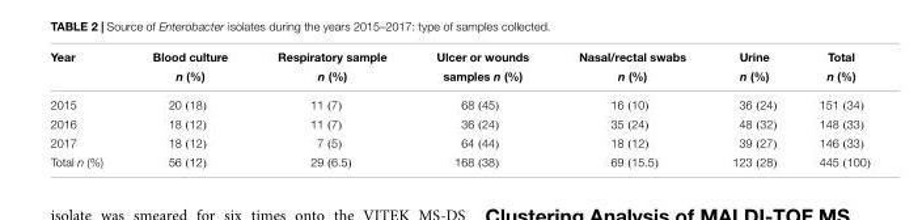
<table><thead><tr><td rowspan="2">Year</td><td rowspan="2">Blood culture n (%)</td><td rowspan="2">Respiratory sample n (%)</td><td rowspan="2">Ulcer or wounds samples n (%)</td><td rowspan="2">Nasal/rectal swabs n (%)</td><td rowspan="2">Urine n (%)</td><td rowspan="2">Total n (%)</td></tr><tr></tr></thead><tbody><tr><td>2015</td><td>20 (18)</td><td>11 (7)</td><td>68 (45)</td><td>16 (10)</td><td>36 (24)</td><td>151 (34)</td></tr><tr><td>2016</td><td>18 (12)</td><td>11 (7)</td><td>36 (24)</td><td>35 (24)</td><td>48 (32)</td><td>148 (33)</td></tr><tr><td>2017</td><td>18 (12)</td><td>7 (5)</td><td>64 (44)</td><td>18 (12)</td><td>39 (27)</td><td>146 (33)</td></tr><tr><td>Total n (%)</td><td>56 (12)</td><td>29 (6.5)</td><td>168 (38)</td><td>69 (15.5)</td><td>123 (28)</td><td>445 (100)</td></tr></tbody></table>